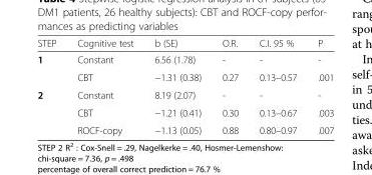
<table><thead><tr><td>STEP</td><td>Cognitive test</td><td>b (SE)</td><td>O.R.</td><td>C.I. 95 %</td><td>P</td></tr></thead><tbody><tr><td rowspan="2">1</td><td>Constant</td><td>6.56 (1.78)</td><td>-</td><td>-</td><td>-</td></tr><tr><td>CBT</td><td>−1.31 (0.38)</td><td>0.27</td><td>0.13–0.57</td><td>.001</td></tr><tr><td rowspan="3">2</td><td>Constant</td><td>8.19 (2.07)</td><td>-</td><td>-</td><td>-</td></tr><tr><td>CBT</td><td>−1.21 (0.41)</td><td>0.30</td><td>0.13–0.67</td><td>.003</td></tr><tr><td>ROCF-copy</td><td>−1.13 (0.05)</td><td>0.88</td><td>0.80–0.97</td><td>.007</td></tr></tbody></table>